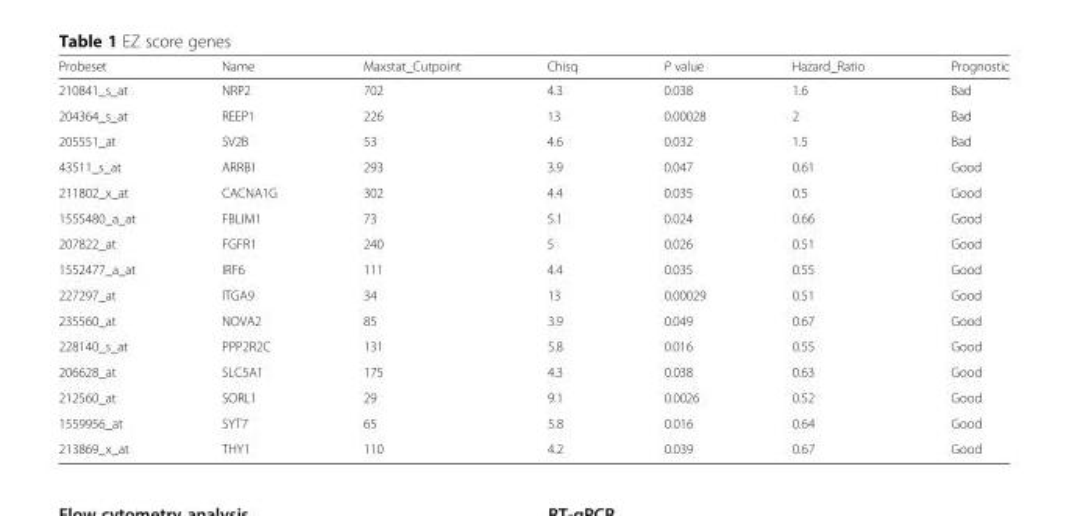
<table><thead><tr><td>Probeset</td><td>Name</td><td>Maxstat_Cutpoint</td><td>Chisq</td><td>P value</td><td>Hazard_Ratio</td><td>Prognostic</td></tr></thead><tbody><tr><td>210841_s_at</td><td>NRP2</td><td>702</td><td>4.3</td><td>0.038</td><td>1.6</td><td>Bad</td></tr><tr><td>204364_s_at</td><td>REEP1</td><td>226</td><td>13</td><td>0.00028</td><td>2</td><td>Bad</td></tr><tr><td>205551_at</td><td>SV2B</td><td>53</td><td>4.6</td><td>0.032</td><td>1.5</td><td>Bad</td></tr><tr><td>43511_s_at</td><td>ARRB1</td><td>293</td><td>3.9</td><td>0.047</td><td>0.61</td><td>Good</td></tr><tr><td>211802_x_at</td><td>CACNA1G</td><td>302</td><td>4.4</td><td>0.035</td><td>0.5</td><td>Good</td></tr><tr><td>1555480_a_at</td><td>FBLIM1</td><td>73</td><td>5.1</td><td>0.024</td><td>0.66</td><td>Good</td></tr><tr><td>207822_at</td><td>FGFR1</td><td>240</td><td>5</td><td>0.026</td><td>0.51</td><td>Good</td></tr><tr><td>1552477_a_at</td><td>IRF6</td><td>111</td><td>4.4</td><td>0.035</td><td>0.55</td><td>Good</td></tr><tr><td>227297_at</td><td>ITGA9</td><td>34</td><td>13</td><td>0.00029</td><td>0.51</td><td>Good</td></tr><tr><td>235560_at</td><td>NOVA2</td><td>85</td><td>3.9</td><td>0.049</td><td>0.67</td><td>Good</td></tr><tr><td>228140_s_at</td><td>PPP2R2C</td><td>131</td><td>5.8</td><td>0.016</td><td>0.55</td><td>Good</td></tr><tr><td>206628_at</td><td>SLC5A1</td><td>175</td><td>4.3</td><td>0.038</td><td>0.63</td><td>Good</td></tr><tr><td>212560_at</td><td>SORL1</td><td>29</td><td>9.1</td><td>0.0026</td><td>0.52</td><td>Good</td></tr><tr><td>1559956_at</td><td>SYT7</td><td>65</td><td>5.8</td><td>0.016</td><td>0.64</td><td>Good</td></tr><tr><td>213869_x_at</td><td>THY1</td><td>110</td><td>4.2</td><td>0.039</td><td>0.67</td><td>Good</td></tr></tbody></table>